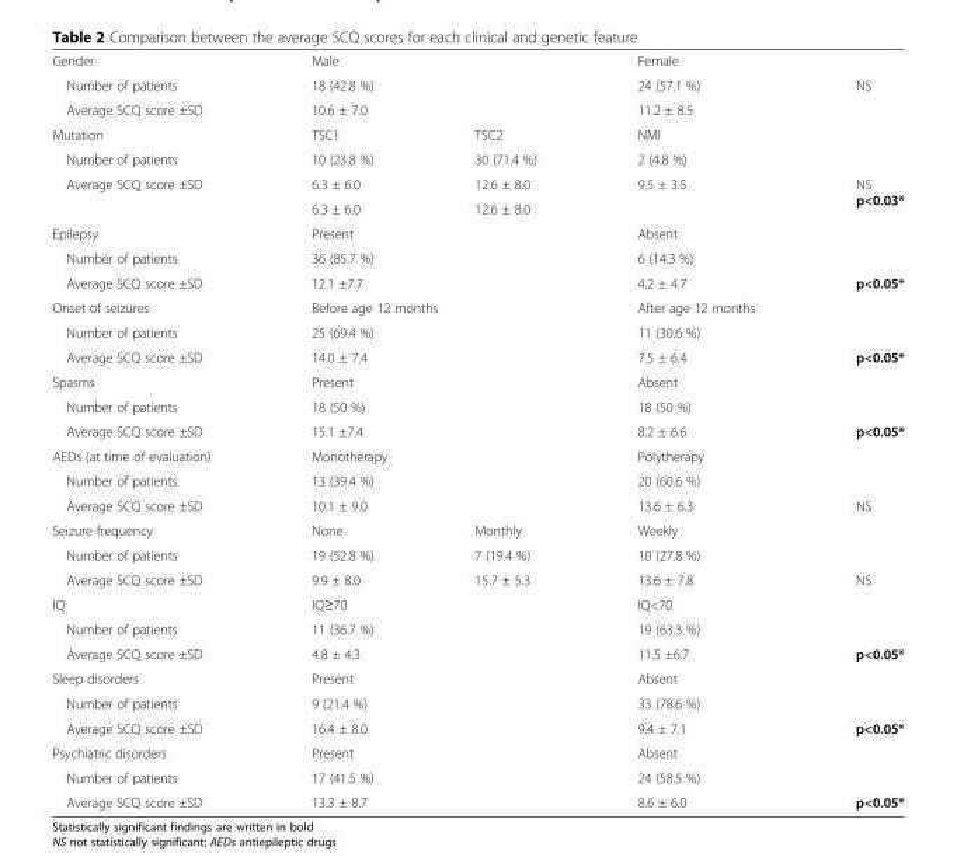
<table><tbody><tr><td>Gender</td><td colspan="2">Male</td><td>Female</td><td></td></tr><tr><td>Number of patients</td><td colspan="2">18 (42.8 %)</td><td>24 (57.1 %)</td><td rowspan="2">NS</td></tr><tr><td>Average SCQ score ±SD</td><td colspan="2">10.6 ± 7.0</td><td>11.2 ± 8.5</td></tr><tr><td>Mutation</td><td>TSC1</td><td>TSC2</td><td>NMI</td><td></td></tr><tr><td>Number of patients</td><td>10 (23.8 %)</td><td>30 (71.4 %)</td><td>2 (4.8 %)</td><td></td></tr><tr><td rowspan="2">Average SCQ score ±SD</td><td>6.3 ± 6.0</td><td>12.6 ± 8.0</td><td rowspan="2">9.5 ± 3.5</td><td rowspan="2">NS p&lt;0.03*</td></tr><tr><td>6.3 ± 6.0</td><td>12.6 ± 8.0</td></tr><tr><td>Epilepsy</td><td colspan="2">Present</td><td>Absent</td><td></td></tr><tr><td>Number of patients</td><td colspan="2">36 (85.7 %)</td><td>6 (14.3 %)</td><td></td></tr><tr><td>Average SCQ score ±SD</td><td colspan="2">12.1 ±7.7</td><td>4.2 ± 4.7</td><td>p&lt;0.05*</td></tr><tr><td>Onset of seizures</td><td colspan="2">Before age 12 months</td><td>After age 12 months</td><td></td></tr><tr><td>Number of patients</td><td colspan="2">25 (69.4 %)</td><td>11 (30.6 %)</td><td></td></tr><tr><td>Average SCQ score ±SD</td><td colspan="2">14.0 ± 7.4</td><td>7.5 ± 6.4</td><td>p&lt;0.05*</td></tr><tr><td>Spasms</td><td colspan="2">Present</td><td>Absent</td><td></td></tr><tr><td>Number of patients</td><td colspan="2">18 (50 %)</td><td>18 (50 %)</td><td></td></tr><tr><td>Average SCQ score ±SD</td><td colspan="2">15.1 ±7.4</td><td>8.2 ± 6.6</td><td>p&lt;0.05*</td></tr><tr><td>AEDs (at time of evaluation)</td><td colspan="2">Monotherapy</td><td>Polytherapy</td><td></td></tr><tr><td>Number of patients</td><td colspan="2">13 (39.4 %)</td><td>20 (60.6 %)</td><td></td></tr><tr><td>Average SCQ score ±SD</td><td colspan="2">10.1 ± 9.0</td><td>13.6 ± 6.3</td><td>NS</td></tr><tr><td>Seizure frequency</td><td>None</td><td>Monthly</td><td>Weekly</td><td></td></tr><tr><td>Number of patients</td><td>19 (52.8 %)</td><td>7 (19.4 %)</td><td>10 (27.8 %)</td><td></td></tr><tr><td>Average SCQ score ±SD</td><td>9.9 ± 8.0</td><td>15.7 ± 5.3</td><td>13.6 ± 7.8</td><td>NS</td></tr><tr><td>IQ</td><td colspan="2">IQ≥70</td><td>IQ&lt;70</td><td></td></tr><tr><td>Number of patients</td><td colspan="2">11 (36.7 %)</td><td>19 (63.3 %)</td><td></td></tr><tr><td>Average SCQ score ±SD</td><td colspan="2">4.8 ± 4.3</td><td>11.5 ±6.7</td><td>p&lt;0.05*</td></tr><tr><td>Sleep disorders</td><td colspan="2">Present</td><td>Absent</td><td></td></tr><tr><td>Number of patients</td><td colspan="2">9 (21.4 %)</td><td>33 (78.6 %)</td><td></td></tr><tr><td>Average SCQ score ±SD</td><td colspan="2">16.4 ± 8.0</td><td>9.4 ± 7.1</td><td>p&lt;0.05*</td></tr><tr><td>Psychiatric disorders</td><td colspan="2">Present</td><td>Absent</td><td></td></tr><tr><td>Number of patients</td><td colspan="2">17 (41.5 %)</td><td>24 (58.5 %)</td><td></td></tr><tr><td>Average SCQ score ±SD</td><td colspan="2">13.3 ± 8.7</td><td>8.6 ± 6.0</td><td>p&lt;0.05*</td></tr></tbody></table>